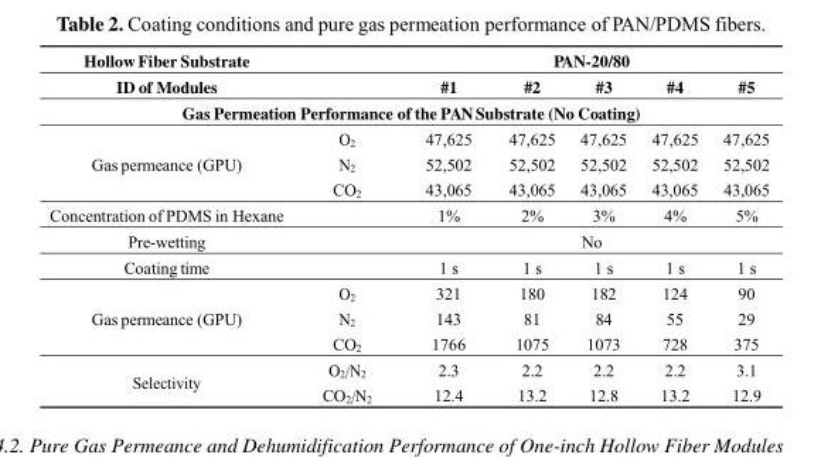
<table><thead><tr><td rowspan="2">Hollow Fiber Substrate ID of Modules</td><td rowspan="2"></td><td colspan="5">PAN-20/80</td></tr><tr><td>#1</td><td>#2</td><td>#3</td><td>#4</td><td>#5</td></tr><tr><td colspan="7">Gas Permeation Performance of the PAN Substrate (No Coating)</td></tr></thead><tbody><tr><td rowspan="3">Gas permeance (GPU)</td><td>O<sub>2</sub></td><td>47,625</td><td>47,625</td><td>47,625</td><td>47,625</td><td>47,625</td></tr><tr><td>N<sub>2</sub></td><td>52,502</td><td>52,502</td><td>52,502</td><td>52,502</td><td>52,502</td></tr><tr><td>CO<sub>2</sub></td><td>43,065</td><td>43,065</td><td>43,065</td><td>43,065</td><td>43,065</td></tr><tr><td>Concentration of PDMS in Hexane</td><td></td><td>1%</td><td>2%</td><td>3%</td><td>4%</td><td>5%</td></tr><tr><td>Pre-wetting</td><td></td><td colspan="5">No</td></tr><tr><td>Coating time</td><td></td><td>1 s</td><td>1 s</td><td>1 s</td><td>1 s</td><td>1 s</td></tr><tr><td rowspan="3">Gas permeance (GPU)</td><td>O<sub>2</sub></td><td>321</td><td>180</td><td>182</td><td>124</td><td>90</td></tr><tr><td>N<sub>2</sub></td><td>143</td><td>81</td><td>84</td><td>55</td><td>29</td></tr><tr><td>CO<sub>2</sub></td><td>1766</td><td>1075</td><td>1073</td><td>728</td><td>375</td></tr><tr><td rowspan="2">Selectivity</td><td>O<sub>2</sub>/N<sub>2</sub></td><td>2.3</td><td>2.2</td><td>2.2</td><td>2.2</td><td>3.1</td></tr><tr><td>CO<sub>2</sub>/N<sub>2</sub></td><td>12.4</td><td>13.2</td><td>12.8</td><td>13.2</td><td>12.9</td></tr></tbody></table>